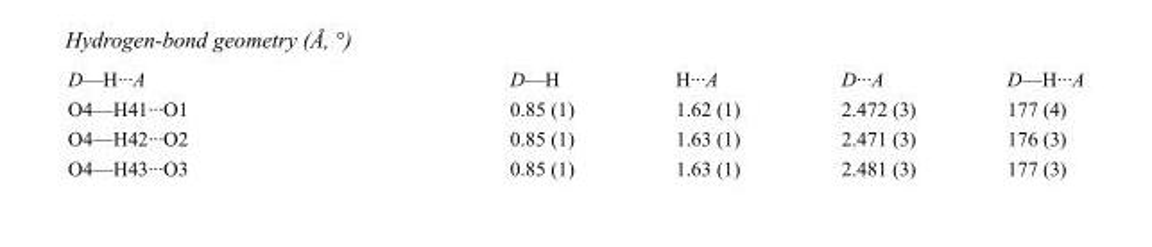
<table><tbody><tr><td>D—H···A</td><td>D—H</td><td>H···A</td><td>D···A</td><td>D—H···A</td></tr><tr><td>O4—H41···O1</td><td>0.85 (1)</td><td>1.62 (1)</td><td>2.472 (3)</td><td>177 (4)</td></tr><tr><td>O4—H42···O2</td><td>0.85 (1)</td><td>1.63 (1)</td><td>2.471 (3)</td><td>176 (3)</td></tr><tr><td>O4—H43···O3</td><td>0.85 (1)</td><td>1.63 (1)</td><td>2.481 (3)</td><td>177 (3)</td></tr></tbody></table>